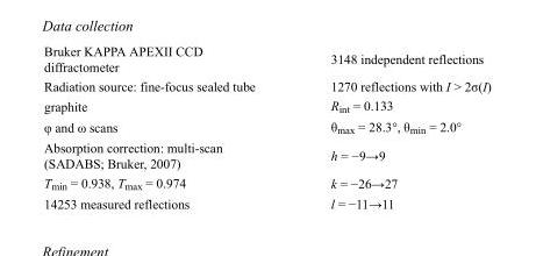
<table><tbody><tr><td>Bruker KAPPA APEXII CCD diffractometer</td><td>3148 independent reflections</td></tr><tr><td>Radiation source: fine-focus sealed tube</td><td>1270 reflections with I &gt; 2σ(I)</td></tr><tr><td>graphite</td><td>R<sub>int</sub> = 0.133</td></tr><tr><td>φ and ω scans</td><td>θ<sub>max</sub> = 28.3°, θ<sub>min</sub> = 2.0°</td></tr><tr><td>Absorption correction: multi-scan (SADABS; Bruker, 2007)</td><td>h = −9→9</td></tr><tr><td>T<sub>min</sub> = 0.938, T<sub>max</sub> = 0.974</td><td>k = −26→27</td></tr><tr><td>14253 measured reflections</td><td>l = −11→11</td></tr></tbody></table>